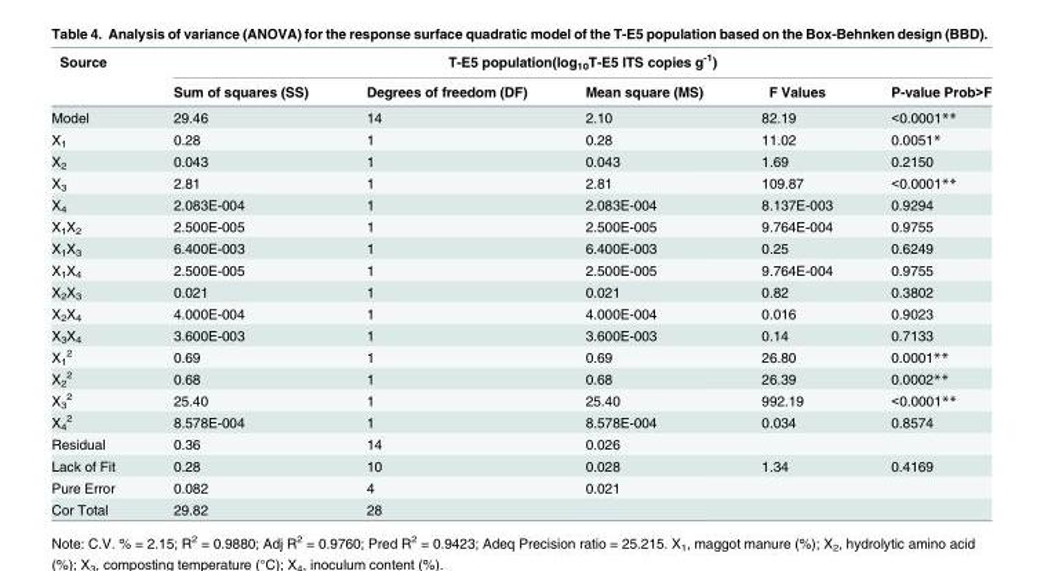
<table><thead><tr><td rowspan="2">Source</td><td colspan="5">T-E5 population(log<sub>10</sub>T-E5 ITS copies g<sup>-1</sup>)</td></tr><tr><td>Sum of squares (SS)</td><td>Degrees of freedom (DF)</td><td>Mean square (MS)</td><td>F Values</td><td>P-value Prob&gt;F</td></tr></thead><tbody><tr><td>Model</td><td>29.46</td><td>14</td><td>2.10</td><td>82.19</td><td>&lt;0.0001**</td></tr><tr><td>X<sub>1</sub></td><td>0.28</td><td>1</td><td>0.28</td><td>11.02</td><td>0.0051*</td></tr><tr><td>X<sub>2</sub></td><td>0.043</td><td>1</td><td>0.043</td><td>1.69</td><td>0.2150</td></tr><tr><td>X<sub>3</sub></td><td>2.81</td><td>1</td><td>2.81</td><td>109.87</td><td>&lt;0.0001**</td></tr><tr><td>X<sub>4</sub></td><td>2.083E-004</td><td>1</td><td>2.083E-004</td><td>8.137E-003</td><td>0.9294</td></tr><tr><td>X<sub>1</sub>X<sub>2</sub></td><td>2.500E-005</td><td>1</td><td>2.500E-005</td><td>9.764E-004</td><td>0.9755</td></tr><tr><td>X<sub>1</sub>X<sub>3</sub></td><td>6.400E-003</td><td>1</td><td>6.400E-003</td><td>0.25</td><td>0.6249</td></tr><tr><td>X<sub>1</sub>X<sub>4</sub></td><td>2.500E-005</td><td>1</td><td>2.500E-005</td><td>9.764E-004</td><td>0.9755</td></tr><tr><td>X<sub>2</sub>X<sub>3</sub></td><td>0.021</td><td>1</td><td>0.021</td><td>0.82</td><td>0.3802</td></tr><tr><td>X<sub>2</sub>X<sub>4</sub></td><td>4.000E-004</td><td>1</td><td>4.000E-004</td><td>0.016</td><td>0.9023</td></tr><tr><td>X<sub>3</sub>X<sub>4</sub></td><td>3.600E-003</td><td>1</td><td>3.600E-003</td><td>0.14</td><td>0.7133</td></tr><tr><td>X<sub>1</sub> <sup>2</sup></td><td>0.69</td><td>1</td><td>0.69</td><td>26.80</td><td>0.0001**</td></tr><tr><td>X<sub>2</sub> <sup>2</sup></td><td>0.68</td><td>1</td><td>0.68</td><td>26.39</td><td>0.0002**</td></tr><tr><td>X<sub>3</sub> <sup>2</sup></td><td>25.40</td><td>1</td><td>25.40</td><td>992.19</td><td>&lt;0.0001**</td></tr><tr><td>X<sub>4</sub> <sup>2</sup></td><td>8.578E-004</td><td>1</td><td>8.578E-004</td><td>0.034</td><td>0.8574</td></tr><tr><td>Residual</td><td>0.36</td><td>14</td><td>0.026</td><td></td><td></td></tr><tr><td>Lack of Fit</td><td>0.28</td><td>10</td><td>0.028</td><td>1.34</td><td>0.4169</td></tr><tr><td>Pure Error</td><td>0.082</td><td>4</td><td>0.021</td><td></td><td></td></tr><tr><td>Cor Total</td><td>29.82</td><td>28</td><td></td><td></td><td></td></tr></tbody></table>